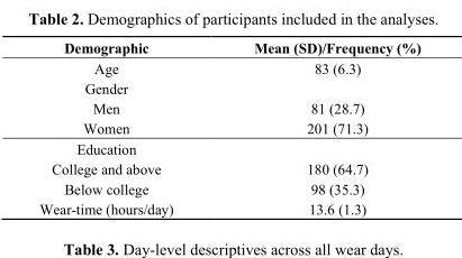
<table><thead><tr><td>Demographic</td><td>Mean (SD)/Frequency (%)</td></tr></thead><tbody><tr><td>Age</td><td>83 (6.3)</td></tr><tr><td colspan="2">Gender</td></tr><tr><td>Men</td><td>81 (28.7)</td></tr><tr><td>Women</td><td>201 (71.3)</td></tr><tr><td colspan="2">Education</td></tr><tr><td>College and above</td><td>180 (64.7)</td></tr><tr><td>Below college</td><td>98 (35.3)</td></tr><tr><td>Wear-time (hours/day)</td><td>13.6 (1.3)</td></tr></tbody></table>